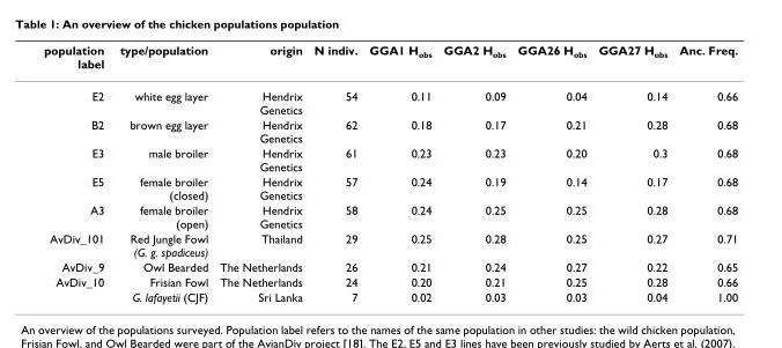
<table><thead><tr><td>population label</td><td>type/population</td><td>origin</td><td>N indiv.</td><td>GGA1 H<sub>obs</sub></td><td>GGA2 H<sub>obs</sub></td><td>GGA26 H<sub>obs</sub></td><td>GGA27 H<sub>obs</sub></td><td>Anc. Freq.</td></tr></thead><tbody><tr><td>E2</td><td>white egg layer</td><td>Hendrix Genetics</td><td>54</td><td>0.11</td><td>0.09</td><td>0.04</td><td>0.14</td><td>0.66</td></tr><tr><td>B2</td><td>brown egg layer</td><td>Hendrix Genetics</td><td>62</td><td>0.18</td><td>0.17</td><td>0.21</td><td>0.28</td><td>0.68</td></tr><tr><td>E3</td><td>male broiler</td><td>Hendrix Genetics</td><td>61</td><td>0.23</td><td>0.23</td><td>0.20</td><td>0.3</td><td>0.68</td></tr><tr><td>E5</td><td>female broiler (closed)</td><td>Hendrix Genetics</td><td>57</td><td>0.24</td><td>0.19</td><td>0.14</td><td>0.17</td><td>0.68</td></tr><tr><td>A3</td><td>female broiler (open)</td><td>Hendrix Genetics</td><td>58</td><td>0.24</td><td>0.25</td><td>0.25</td><td>0.28</td><td>0.68</td></tr><tr><td>AvDiv_101</td><td>Red Jungle Fowl (G. g. spadiceus)</td><td>Thailand</td><td>29</td><td>0.25</td><td>0.28</td><td>0.25</td><td>0.27</td><td>0.71</td></tr><tr><td>AvDiv_9</td><td>Owl Bearded</td><td>The Netherlands</td><td>26</td><td>0.21</td><td>0.24</td><td>0.27</td><td>0.22</td><td>0.65</td></tr><tr><td rowspan="2">AvDiv_10</td><td>Frisian Fowl</td><td>The Netherlands</td><td>24</td><td>0.20</td><td>0.21</td><td>0.25</td><td>0.28</td><td>0.66</td></tr><tr><td>G. lafayetii (CJF)</td><td>Sri Lanka</td><td>7</td><td>0.02</td><td>0.03</td><td>0.03</td><td>0.04</td><td>1.00</td></tr></tbody></table>